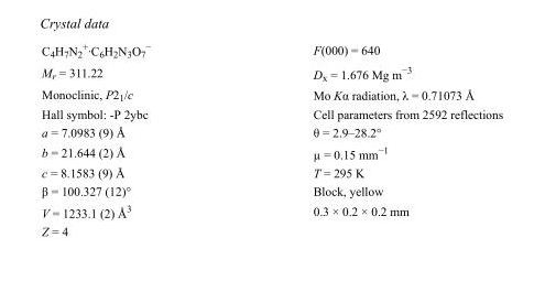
<table><tbody><tr><td>C<sub>4</sub>H<sub>7</sub>N<sub>2</sub> <sup>+</sup>·C<sub>6</sub>H<sub>2</sub>N<sub>3</sub>O<sub>7</sub> <sup>−</sup></td><td>F(000) = 640</td></tr><tr><td>M<sub>r</sub> = 311.22</td><td>D<sub>x</sub> = 1.676 Mg m<sup>−3</sup></td></tr><tr><td>Monoclinic, P2<sub>1</sub>/c</td><td>Mo Kα radiation, λ = 0.71073 Å</td></tr><tr><td>Hall symbol: -P 2ybc</td><td>Cell parameters from 2592 reflections</td></tr><tr><td>a = 7.0983 (9) Å</td><td>θ = 2.9–28.2°</td></tr><tr><td>b = 21.644 (2) Å</td><td>µ = 0.15 mm<sup>−1</sup></td></tr><tr><td>c = 8.1583 (9) Å</td><td>T = 295 K</td></tr><tr><td>β = 100.327 (12)°</td><td>Block, yellow</td></tr><tr><td>V = 1233.1 (2) Å<sup>3</sup></td><td>0.3 × 0.2 × 0.2 mm</td></tr><tr><td>Z = 4</td><td></td></tr></tbody></table>